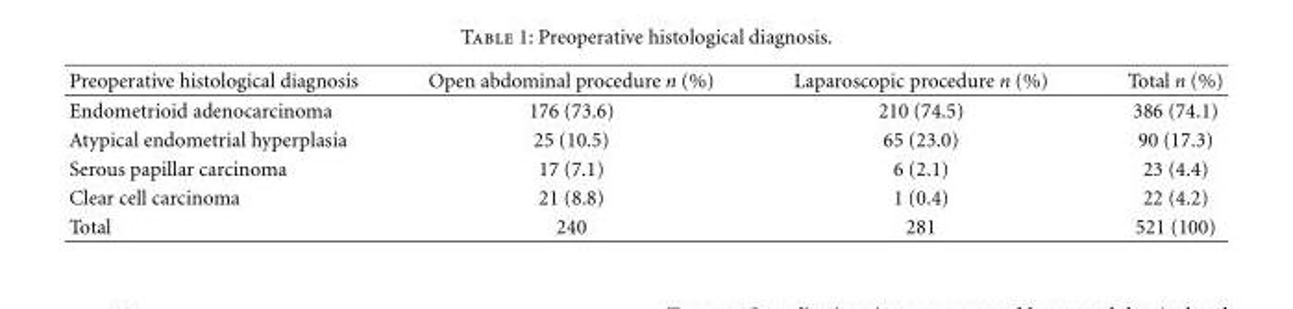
<table><thead><tr><td>Preoperative histological diagnosis</td><td>Open abdominal procedure n (%)</td><td>Laparoscopic procedure n (%)</td><td>Total n (%)</td></tr></thead><tbody><tr><td>Endometrioid adenocarcinoma</td><td>176 (73.6)</td><td>210 (74.5)</td><td>386 (74.1)</td></tr><tr><td>Atypical endometrial hyperplasia</td><td>25 (10.5)</td><td>65 (23.0)</td><td>90 (17.3)</td></tr><tr><td>Serous papillar carcinoma</td><td>17 (7.1)</td><td>6 (2.1)</td><td>23 (4.4)</td></tr><tr><td>Clear cell carcinoma</td><td>21 (8.8)</td><td>1 (0.4)</td><td>22 (4.2)</td></tr><tr><td>Total</td><td>240</td><td>281</td><td>521 (100)</td></tr></tbody></table>